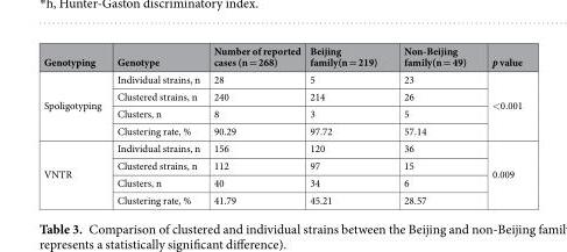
<table><thead><tr><td>Genotyping</td><td>Genotype</td><td>Number of reported cases (n = 268)</td><td>Beijing family(n = 219)</td><td>Non-Beijing family(n = 49)</td><td>p value</td></tr></thead><tbody><tr><td rowspan="4">Spoligotyping</td><td>Individual strains, n</td><td>28</td><td>5</td><td>23</td><td rowspan="4">&lt;0.001</td></tr><tr><td>Clustered strains, n</td><td>240</td><td>214</td><td>26</td></tr><tr><td>Clusters, n</td><td>8</td><td>3</td><td>5</td></tr><tr><td>Clustering rate, %</td><td>90.29</td><td>97.72</td><td>57.14</td></tr><tr><td rowspan="4">VNTR</td><td>Individual strains, n</td><td>156</td><td>120</td><td>36</td><td rowspan="4">0.009</td></tr><tr><td>Clustered strains, n</td><td>112</td><td>97</td><td>15</td></tr><tr><td>Clusters, n</td><td>40</td><td>34</td><td>6</td></tr><tr><td>Clustering rate, %</td><td>41.79</td><td>45.21</td><td>28.57</td></tr></tbody></table>